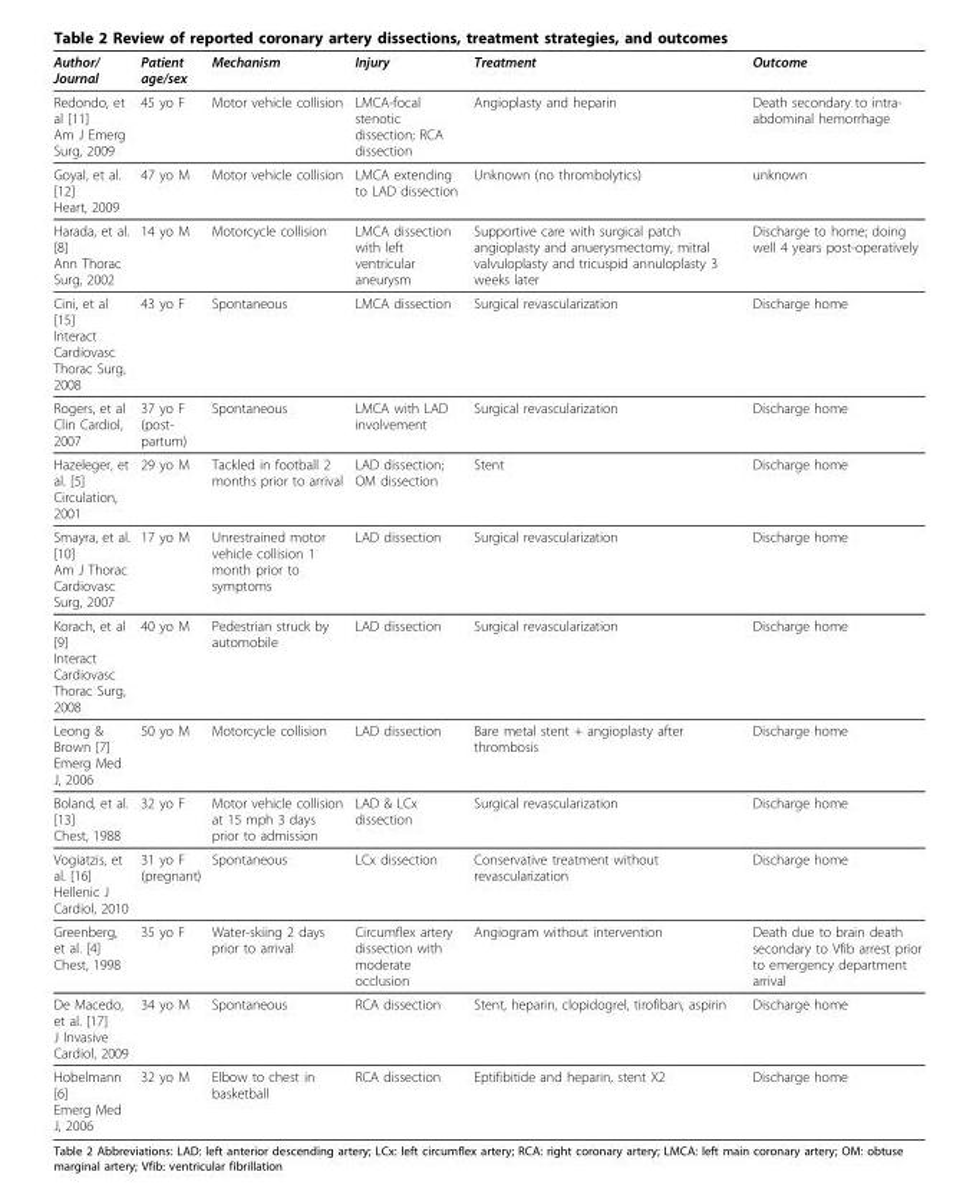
<table><thead><tr><td>Author/ Journal</td><td>Patient age/sex</td><td>Mechanism</td><td>Injury</td><td>Treatment</td><td>Outcome</td></tr></thead><tbody><tr><td>Redondo, et al [11] Am J Emerg Surg, 2009</td><td>45 yo F</td><td>Motor vehicle collision</td><td>LMCA-focal stenotic dissection; RCA dissection</td><td>Angioplasty and heparin</td><td>Death secondary to intra- abdominal hemorrhage</td></tr><tr><td>Goyal, et al. [12] Heart, 2009</td><td>47 yo M</td><td>Motor vehicle collision</td><td>LMCA extending to LAD dissection</td><td>Unknown (no thrombolytics)</td><td>unknown</td></tr><tr><td>Harada, et al. [8] Ann Thorac Surg, 2002</td><td>14 yo M</td><td>Motorcycle collision</td><td>LMCA dissection with left ventricular aneurysm</td><td>Supportive care with surgical patch angioplasty and anuerysmectomy, mitral valvuloplasty and tricuspid annuloplasty 3 weeks later</td><td>Discharge to home; doing well 4 years post-operatively</td></tr><tr><td>Cini, et al [15] Interact Cardiovasc Thorac Surg, 2008</td><td>43 yo F</td><td>Spontaneous</td><td>LMCA dissection</td><td>Surgical revascularization</td><td>Discharge home</td></tr><tr><td>Rogers, et al Clin Cardiol, 2007</td><td>37 yo F (post- partum)</td><td>Spontaneous</td><td>LMCA with LAD involvement</td><td>Surgical revascularization</td><td>Discharge home</td></tr><tr><td>Hazeleger, et al. [5] Circulation, 2001</td><td>29 yo M</td><td>Tackled in football 2 months prior to arrival</td><td>LAD dissection; OM dissection</td><td>Stent</td><td>Discharge home</td></tr><tr><td>Smayra, et al. [10] Am J Thorac Cardiovasc Surg, 2007</td><td>17 yo M</td><td>Unrestrained motor vehicle collision 1 month prior to symptoms</td><td>LAD dissection</td><td>Surgical revascularization</td><td>Discharge home</td></tr><tr><td>Korach, et al [9] Interact Cardiovasc Thorac Surg, 2008</td><td>40 yo M</td><td>Pedestrian struck by automobile</td><td>LAD dissection</td><td>Surgical revascularization</td><td>Discharge home</td></tr><tr><td>Leong &amp; Brown [7] Emerg Med J, 2006</td><td>50 yo M</td><td>Motorcycle collision</td><td>LAD dissection</td><td>Bare metal stent + angioplasty after thrombosis</td><td>Discharge home</td></tr><tr><td>Boland, et al. [13] Chest, 1988</td><td>32 yo F</td><td>Motor vehicle collision at 15 mph 3 days prior to admission</td><td>LAD &amp; LCx dissection</td><td>Surgical revascularization</td><td>Discharge home</td></tr><tr><td>Vogiatzis, et al. [16] Hellenic J Cardiol, 2010</td><td>31 yo F (pregnant)</td><td>Spontaneous</td><td>LCx dissection</td><td>Conservative treatment without revascularization</td><td>Discharge home</td></tr><tr><td>Greenberg, et al. [4] Chest, 1998</td><td>35 yo F</td><td>Water-skiing 2 days prior to arrival</td><td>Circumflex artery dissection with moderate occlusion</td><td>Angiogram without intervention</td><td>Death due to brain death secondary to Vfib arrest prior to emergency department arrival</td></tr><tr><td>De Macedo, et al. [17] J Invasive Cardiol, 2009</td><td>34 yo M</td><td>Spontaneous</td><td>RCA dissection</td><td>Stent, heparin, clopidogrel, tirofiban, aspirin</td><td>Discharge home</td></tr><tr><td>Hobelmann [6] Emerg Med J, 2006</td><td>32 yo M</td><td>Elbow to chest in basketball</td><td>RCA dissection</td><td>Eptifibitide and heparin, stent X2</td><td>Discharge home</td></tr></tbody></table>